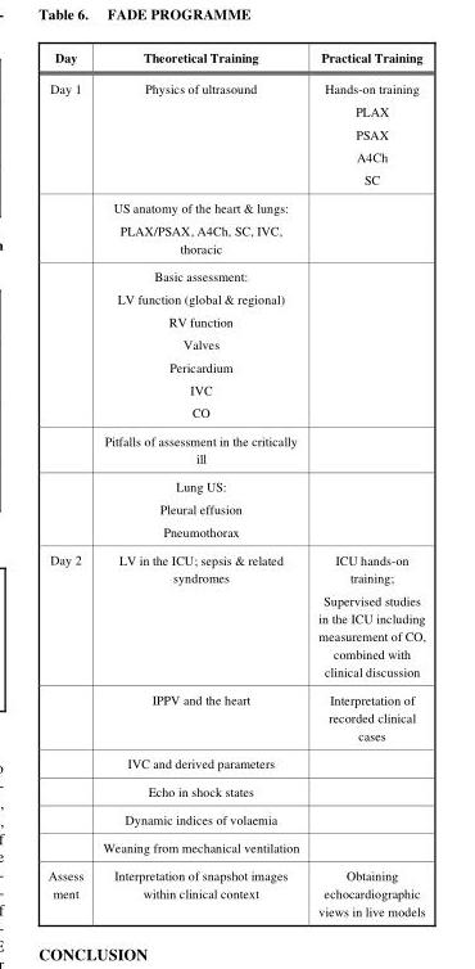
<table><thead><tr><td>Day</td><td>Theoretical Training</td><td>Practical Training</td></tr></thead><tbody><tr><td rowspan="17">Day 1</td><td rowspan="5">Physics of ultrasound</td><td>Hands-on training</td></tr><tr><td>PLAX</td></tr><tr><td>PSAX</td></tr><tr><td>A4Ch</td></tr><tr><td>SC</td></tr><tr><td>US anatomy of the heart &amp; lungs: PLAX/PSAX, A4Ch, SC, IVC, thoracic</td><td></td></tr><tr><td>Basic assessment:</td><td rowspan="7"></td></tr><tr><td>LV function (global &amp; regional)</td></tr><tr><td>RV function</td></tr><tr><td>Valves</td></tr><tr><td>Pericardium</td></tr><tr><td>IVC</td></tr><tr><td>CO</td></tr><tr><td>Pitfalls of assessment in the critically ill</td><td></td></tr><tr><td>Lung US:</td><td rowspan="3"></td></tr><tr><td>Pleural effusion</td></tr><tr><td>Pneumothorax</td></tr><tr><td rowspan="7">Day 2</td><td rowspan="2">LV in the ICU; sepsis &amp; related syndromes</td><td>ICU hands-on training;</td></tr><tr><td>Supervised studies in the ICU including measurement of CO, combined with clinical discussion</td></tr><tr><td>IPPV and the heart</td><td>Interpretation of recorded clinical cases</td></tr><tr><td>IVC and derived parameters</td><td></td></tr><tr><td>Echo in shock states</td><td></td></tr><tr><td>Dynamic indices of volaemia</td><td></td></tr><tr><td>Weaning from mechanical ventilation</td><td></td></tr><tr><td>Assess ment</td><td>Interpretation of snapshot images within clinical context</td><td>Obtaining echocardiographic views in live models</td></tr></tbody></table>